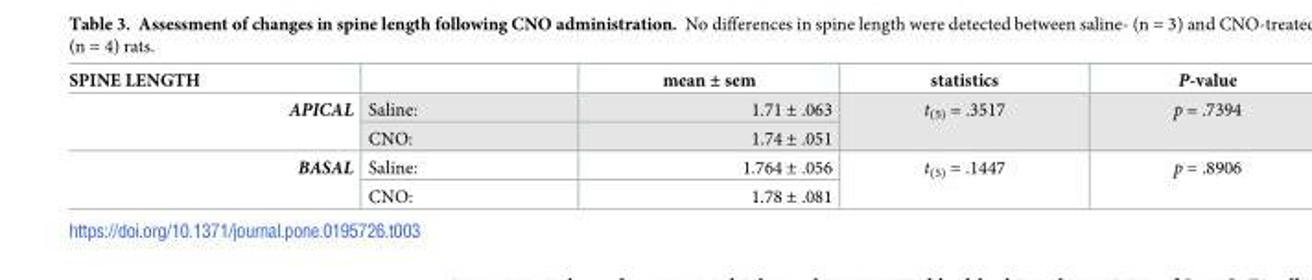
<table><thead><tr><td>SPINE LENGTH</td><td></td><td>mean ± sem</td><td>statistics</td><td>P-value</td></tr></thead><tbody><tr><td rowspan="2">APICAL</td><td>Saline:</td><td>1.71 ± .063</td><td rowspan="2">t<sub>(5)</sub> = .3517</td><td rowspan="2">p = .7394</td></tr><tr><td>CNO:</td><td>1.74 ± .051</td></tr><tr><td rowspan="2">BASAL</td><td>Saline:</td><td>1.764 ± .056</td><td rowspan="2">t<sub>(5)</sub> = .1447</td><td rowspan="2">p = .8906</td></tr><tr><td>CNO:</td><td>1.78 ± .081</td></tr></tbody></table>